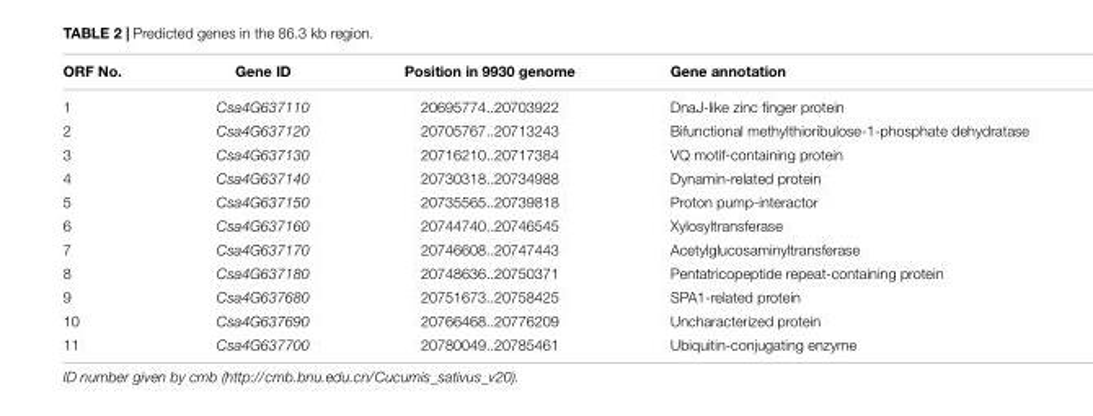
<table><thead><tr><td>ORF No.</td><td>Gene ID</td><td>Position in 9930 genome</td><td>Gene annotation</td></tr></thead><tbody><tr><td>1</td><td>Csa4G637110</td><td>20695774..20703922</td><td>DnaJ-like zinc finger protein</td></tr><tr><td>2</td><td>Csa4G637120</td><td>20705767..20713243</td><td>Bifunctional methylthioribulose-1-phosphate dehydratase</td></tr><tr><td>3</td><td>Csa4G637130</td><td>20716210..20717384</td><td>VQ motif-containing protein</td></tr><tr><td>4</td><td>Csa4G637140</td><td>20730318..20734988</td><td>Dynamin-related protein</td></tr><tr><td>5</td><td>Csa4G637150</td><td>20735565..20739818</td><td>Proton pump-interactor</td></tr><tr><td>6</td><td>Csa4G637160</td><td>20744740..20746545</td><td>Xylosyltransferase</td></tr><tr><td>7</td><td>Csa4G637170</td><td>20746608..20747443</td><td>Acetylglucosaminyltransferase</td></tr><tr><td>8</td><td>Csa4G637180</td><td>20748636..20750371</td><td>Pentatricopeptide repeat-containing protein</td></tr><tr><td>9</td><td>Csa4G637680</td><td>20751673..20758425</td><td>SPA1-related protein</td></tr><tr><td>10</td><td>Csa4G637690</td><td>20766468..20776209</td><td>Uncharacterized protein</td></tr><tr><td>11</td><td>Csa4G637700</td><td>20780049..20785461</td><td>Ubiquitin-conjugating enzyme</td></tr></tbody></table>